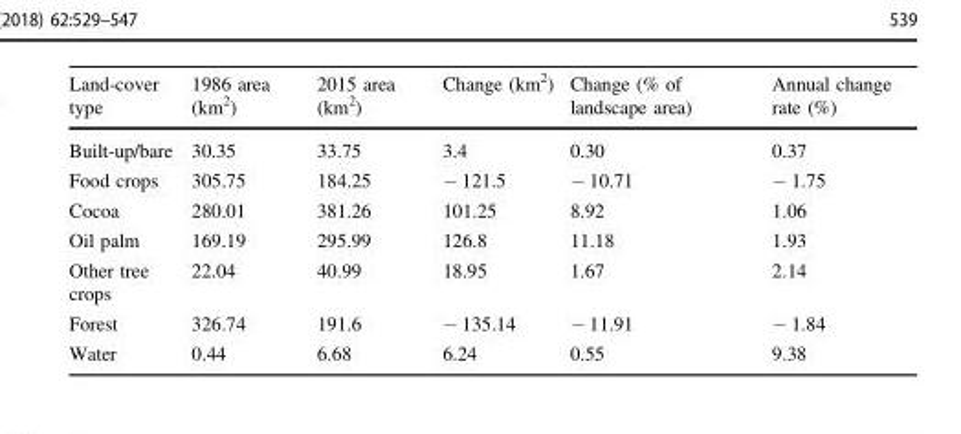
<table><thead><tr><td>Land-cover type</td><td>1986 area (km<sup>2</sup>)</td><td>2015 area (km<sup>2</sup>)</td><td>Change (km<sup>2</sup>)</td><td>Change (% of landscape area)</td><td>Annual change rate (%)</td></tr></thead><tbody><tr><td>Built-up/bare</td><td>30.35</td><td>33.75</td><td>3.4</td><td>0.30</td><td>0.37</td></tr><tr><td>Food crops</td><td>305.75</td><td>184.25</td><td>− 121.5</td><td>− 10.71</td><td>− 1.75</td></tr><tr><td>Cocoa</td><td>280.01</td><td>381.26</td><td>101.25</td><td>8.92</td><td>1.06</td></tr><tr><td>Oil palm</td><td>169.19</td><td>295.99</td><td>126.8</td><td>11.18</td><td>1.93</td></tr><tr><td>Other tree crops</td><td>22.04</td><td>40.99</td><td>18.95</td><td>1.67</td><td>2.14</td></tr><tr><td>Forest</td><td>326.74</td><td>191.6</td><td>− 135.14</td><td>− 11.91</td><td>− 1.84</td></tr><tr><td>Water</td><td>0.44</td><td>6.68</td><td>6.24</td><td>0.55</td><td>9.38</td></tr></tbody></table>